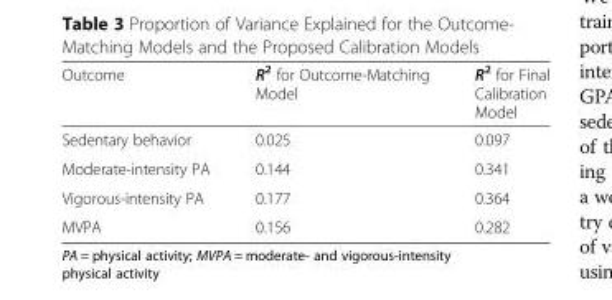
<table><thead><tr><td>Outcome</td><td>R<sup>2</sup> for Outcome-Matching Model</td><td>R<sup>2</sup> for Final Calibration Model</td></tr></thead><tbody><tr><td>Sedentary behavior</td><td>0.025</td><td>0.097</td></tr><tr><td>Moderate-intensity PA</td><td>0.144</td><td>0.341</td></tr><tr><td>Vigorous-intensity PA</td><td>0.177</td><td>0.364</td></tr><tr><td>MVPA</td><td>0.156</td><td>0.282</td></tr></tbody></table>